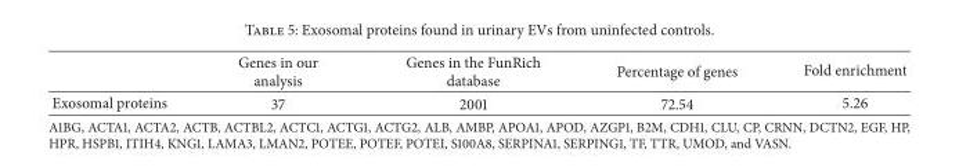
<table><thead><tr><td></td><td>Genes in our analysis</td><td>Genes in the FunRich database</td><td>Percentage of genes</td><td>Fold enrichment</td></tr></thead><tbody><tr><td>Exosomal proteins</td><td>37</td><td>2001</td><td>72.54</td><td>5.26</td></tr></tbody></table>